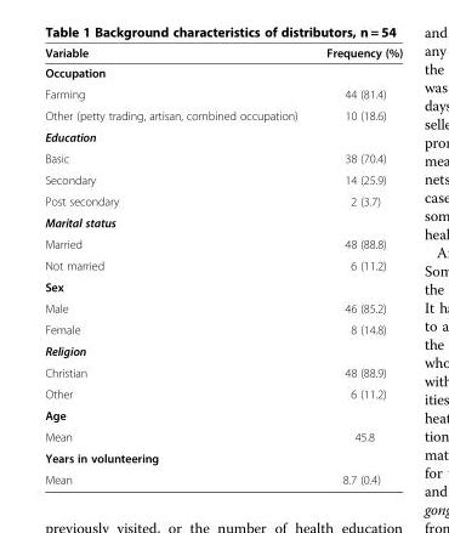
<table><thead><tr><td>Variable</td><td>Frequency (%)</td></tr></thead><tbody><tr><td colspan="2">Occupation</td></tr><tr><td>Farming</td><td>44 (81.4)</td></tr><tr><td>Other (petty trading, artisan, combined occupation)</td><td>10 (18.6)</td></tr><tr><td colspan="2">Education</td></tr><tr><td>Basic</td><td>38 (70.4)</td></tr><tr><td>Secondary</td><td>14 (25.9)</td></tr><tr><td>Post secondary</td><td>2 (3.7)</td></tr><tr><td colspan="2">Marital status</td></tr><tr><td>Married</td><td>48 (88.8)</td></tr><tr><td>Not married</td><td>6 (11.2)</td></tr><tr><td colspan="2">Sex</td></tr><tr><td>Male</td><td>46 (85.2)</td></tr><tr><td>Female</td><td>8 (14.8)</td></tr><tr><td colspan="2">Religion</td></tr><tr><td>Christian</td><td>48 (88.9)</td></tr><tr><td>Other</td><td>6 (11.2)</td></tr><tr><td colspan="2">Age</td></tr><tr><td>Mean</td><td>45.8</td></tr><tr><td colspan="2">Years in volunteering</td></tr><tr><td>Mean</td><td>8.7 (0.4)</td></tr></tbody></table>